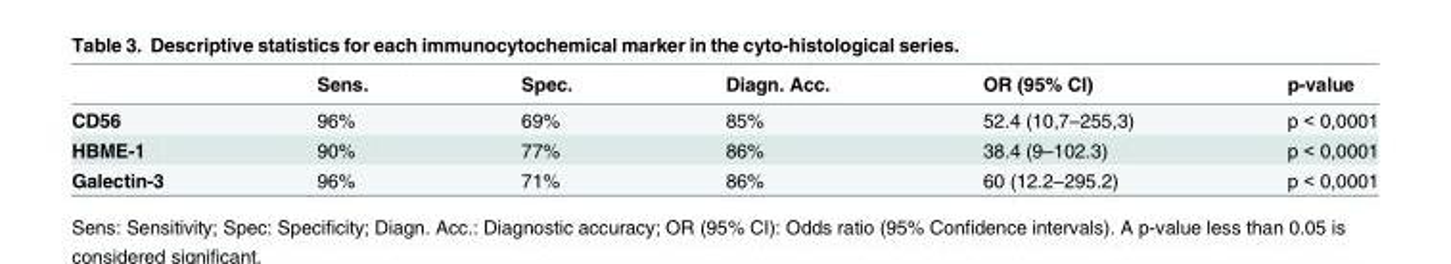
<table><thead><tr><td></td><td>Sens.</td><td>Spec.</td><td>Diagn. Acc.</td><td>OR (95% CI)</td><td>p-value</td></tr></thead><tbody><tr><td>CD56</td><td>96%</td><td>69%</td><td>85%</td><td>52.4 (10,7–255,3)</td><td>p &lt; 0,0001</td></tr><tr><td>HBME-1</td><td>90%</td><td>77%</td><td>86%</td><td>38.4 (9–102.3)</td><td>p &lt; 0,0001</td></tr><tr><td>Galectin-3</td><td>96%</td><td>71%</td><td>86%</td><td>60 (12.2–295.2)</td><td>p &lt; 0,0001</td></tr></tbody></table>